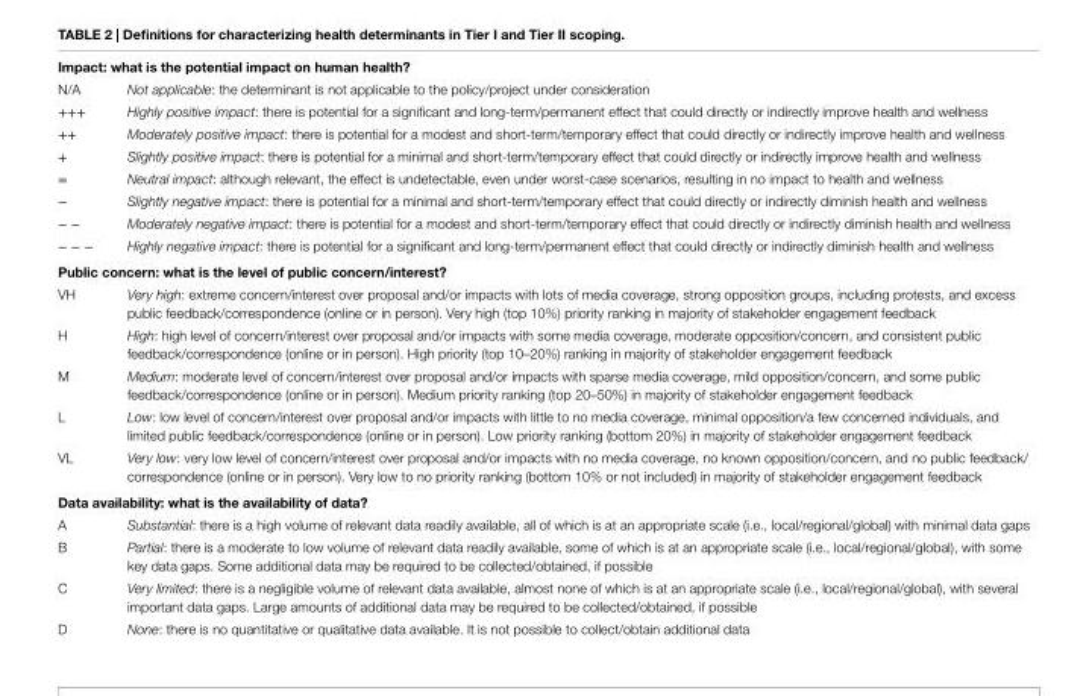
<table><tbody><tr><td colspan="2">impact: what is the potential impact on human health?</td></tr><tr><td>N/A</td><td>Not applicable: the determinant is not applicable to the policy/project under consideration</td></tr><tr><td>+++</td><td>Highly positive impact: there is potential for a significant and long-term/permanent effect that could directly or indirectly improve health and wellness</td></tr><tr><td>++</td><td>Moderately positive impact: there is potential for a modest and short-term/temporary effect that could directly or indirectly improve health and wellness</td></tr><tr><td>+</td><td>Slightly positive impact: there is potential for a minimal and short-term/temporary effect that could directly or indirectly improve health and wellness</td></tr><tr><td>=</td><td>Neutral impact: although relevant, the effect is undetectable, even under worst-case scenarios, resulting in no impact to health and wellness</td></tr><tr><td>−</td><td>Slightly negative impact: there is potential for a minimal and short-term/temporary effect that could directly or indirectly diminish health and wellness</td></tr><tr><td>− −</td><td>Moderately negative impact: there is potential for a modest and short-term/temporary effect that could directly or indirectly diminish health and wellness</td></tr><tr><td>− − −</td><td>Highly negative impact: there is potential for a significant and long-term/permanent effect that could directly or indirectly diminish health and wellness</td></tr><tr><td colspan="2">Public concern: what is the level of public concern/interest?</td></tr><tr><td>VH</td><td>Very high: extreme concern/interest over proposal and/or impacts with lots of media coverage, strong opposition groups, including protests, and excess public feedback/correspondence (online or in person). Very high (top 10%) priority ranking in majority of stakeholder engagement feedback</td></tr><tr><td>H</td><td>High: high level of concern/interest over proposal and/or impacts with some media coverage, moderate opposition/concern, and consistent public feedback/correspondence (online or in person). High priority (top 10–20%) ranking in majority of stakeholder engagement feedback</td></tr><tr><td>M</td><td>Medium: moderate level of concern/interest over proposal and/or impacts with sparse media coverage, mild opposition/concern, and some public feedback/correspondence (online or in person). Medium priority ranking (top 20–50%) in majority of stakeholder engagement feedback</td></tr><tr><td>L</td><td>Low: low level of concern/interest over proposal and/or impacts with little to no media coverage, minimal opposition/a few concerned individuals, and limited public feedback/correspondence (online or in person). Low priority ranking (bottom 20%) in majority of stakeholder engagement feedback</td></tr><tr><td>VL</td><td>Very low: very low level of concern/interest over proposal and/or impacts with no media coverage, no known opposition/concern, and no public feedback/ correspondence (online or in person). Very low to no priority ranking (bottom 10% or not included) in majority of stakeholder engagement feedback</td></tr><tr><td colspan="2">Data availability: what is the availability of data?</td></tr><tr><td>A</td><td>Substantial: there is a high volume of relevant data readily available, all of which is at an appropriate scale (i.e., local/regional/global) with minimal data gaps</td></tr><tr><td>B</td><td>Partial: there is a moderate to low volume of relevant data readily available, some of which is at an appropriate scale (i.e., local/regional/global), with some key data gaps. Some additional data may be required to be collected/obtained, if possible</td></tr><tr><td>C</td><td>Very limited: there is a negligible volume of relevant data available, almost none of which is at an appropriate scale (i.e., local/regional/global), with several important data gaps. Large amounts of additional data may be required to be collected/obtained, if possible</td></tr><tr><td>D</td><td>None: there is no quantitative or qualitative data available. It is not possible to collect/obtain additional data</td></tr></tbody></table>